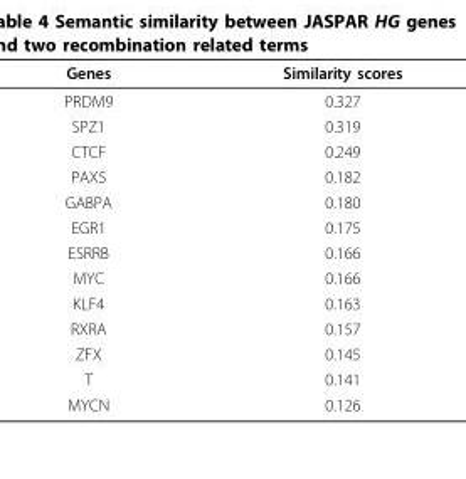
<table><thead><tr><td>Genes</td><td>Similarity scores</td></tr></thead><tbody><tr><td>PRDM9</td><td>0.327</td></tr><tr><td>SPZ1</td><td>0.319</td></tr><tr><td>CTCF</td><td>0.249</td></tr><tr><td>PAX5</td><td>0.182</td></tr><tr><td>GABPA</td><td>0.180</td></tr><tr><td>EGR1</td><td>0.175</td></tr><tr><td>ESRRB</td><td>0.166</td></tr><tr><td>MYC</td><td>0.166</td></tr><tr><td>KLF4</td><td>0.163</td></tr><tr><td>RXRA</td><td>0.157</td></tr><tr><td>ZFX</td><td>0.145</td></tr><tr><td>T</td><td>0.141</td></tr><tr><td>MYCN</td><td>0.126</td></tr></tbody></table>